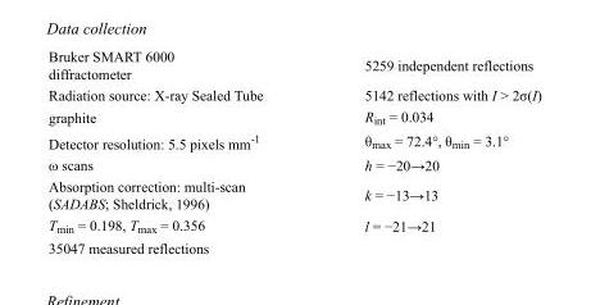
<table><tbody><tr><td>Bruker SMART 6000 diffractometer</td><td>5259 independent reflections</td></tr><tr><td>Radiation source: X-ray Sealed Tube</td><td>5142 reflections with I &gt; 2σ(I)</td></tr><tr><td>graphite</td><td>R<sub>int</sub> = 0.034</td></tr><tr><td>Detector resolution: 5.5 pixels mm<sup>-1</sup></td><td>θ<sub>max</sub> = 72.4°, θ<sub>min</sub> = 3.1°</td></tr><tr><td>ω scans</td><td>h = −20→20</td></tr><tr><td>Absorption correction: multi-scan (SADABS; Sheldrick, 1996)</td><td>k = −13→13</td></tr><tr><td>T<sub>min</sub> = 0.198, T<sub>max</sub> = 0.356</td><td>l = −21→21</td></tr><tr><td>35047 measured reflections</td><td></td></tr></tbody></table>